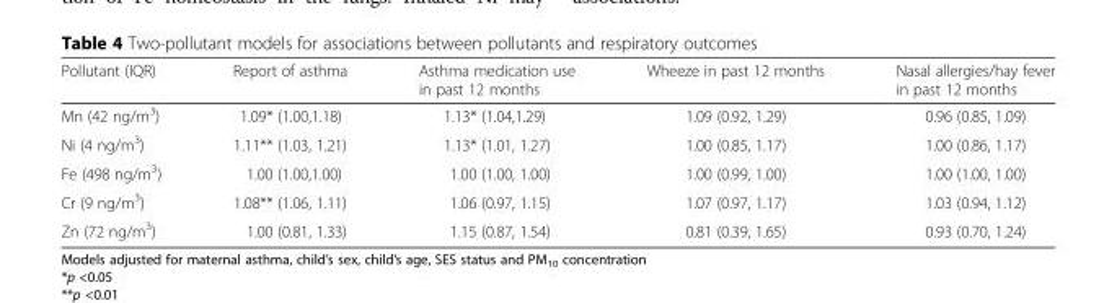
<table><thead><tr><td>Pollutant (IQR)</td><td>Report of asthma</td><td>Asthma medication use in past 12 months</td><td>Wheeze in past 12 months</td><td>Nasal allergies/hay fever in past 12 months</td></tr></thead><tbody><tr><td>Mn (42 ng/m<sup>3</sup>)</td><td>1.09* (1.00,1.18)</td><td>1.13* (1.04,1.29)</td><td>1.09 (0.92, 1.29)</td><td>0.96 (0.85, 1.09)</td></tr><tr><td>Ni (4 ng/m<sup>3</sup>)</td><td>1.11** (1.03, 1.21)</td><td>1.13* (1.01, 1.27)</td><td>1.00 (0.85, 1.17)</td><td>1.00 (0.86, 1.17)</td></tr><tr><td>Fe (498 ng/m<sup>3</sup>)</td><td>1.00 (1.00,1.00)</td><td>1.00 (1.00, 1.00)</td><td>1.00 (0.99, 1.00)</td><td>1.00 (1.00, 1.00)</td></tr><tr><td>Cr (9 ng/m<sup>3</sup>)</td><td>1.08** (1.06, 1.11)</td><td>1.06 (0.97, 1.15)</td><td>1.07 (0.97, 1.17)</td><td>1.03 (0.94, 1.12)</td></tr><tr><td>Zn (72 ng/m<sup>3</sup>)</td><td>1.00 (0.81, 1.33)</td><td>1.15 (0.87, 1.54)</td><td>0.81 (0.39, 1.65)</td><td>0.93 (0.70, 1.24)</td></tr></tbody></table>